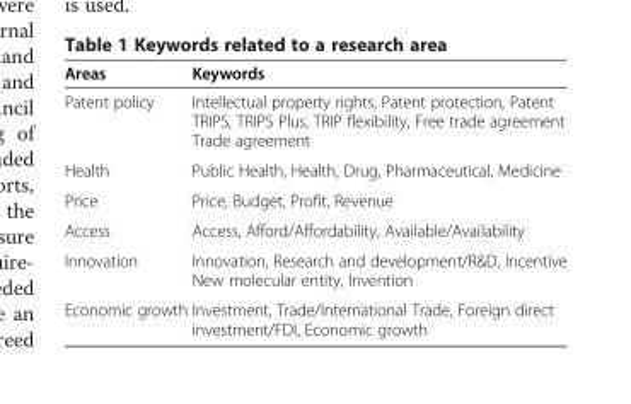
<table><thead><tr><td>Areas</td><td>Keywords</td></tr></thead><tbody><tr><td>Patent policy</td><td>Intellectual property rights, Patent protection, Patent TRIPS, TRIPS Plus, TRIP flexibility, Free trade agreement Trade agreement</td></tr><tr><td>Health</td><td>Public Health, Health, Drug, Pharmaceutical, Medicine</td></tr><tr><td>Price</td><td>Price, Budget, Profit, Revenue</td></tr><tr><td>Access</td><td>Access, Afford/Affordability, Available/Availability</td></tr><tr><td>Innovation</td><td>Innovation, Research and development/R&amp;D, Incentive New molecular entity, Invention</td></tr><tr><td>Economic growth</td><td>Investment, Trade/International Trade, Foreign direct investment/FDI, Economic growth</td></tr></tbody></table>